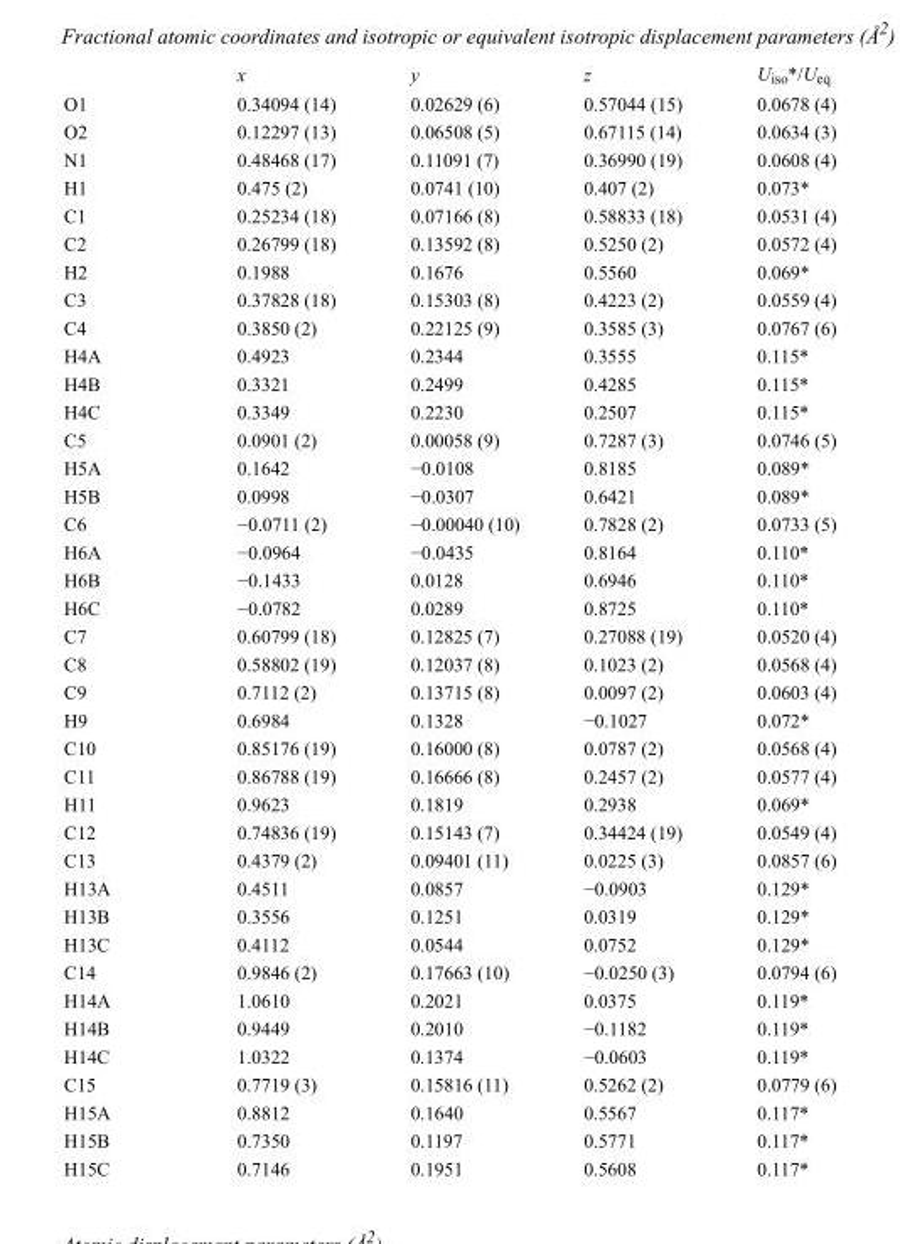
<table><thead><tr><td></td><td>x</td><td>y</td><td>z</td><td>U<sub>iso</sub>*/U<sub>eq</sub></td></tr></thead><tbody><tr><td>O1</td><td>0.34094 (14)</td><td>0.02629 (6)</td><td>0.57044 (15)</td><td>0.0678 (4)</td></tr><tr><td>O2</td><td>0.12297 (13)</td><td>0.06508 (5)</td><td>0.67115 (14)</td><td>0.0634 (3)</td></tr><tr><td>N1</td><td>0.48468 (17)</td><td>0.11091 (7)</td><td>0.36990 (19)</td><td>0.0608 (4)</td></tr><tr><td>H1</td><td>0.475 (2)</td><td>0.0741 (10)</td><td>0.407 (2)</td><td>0.073*</td></tr><tr><td>C1</td><td>0.25234 (18)</td><td>0.07166 (8)</td><td>0.58833 (18)</td><td>0.0531 (4)</td></tr><tr><td>C2</td><td>0.26799 (18)</td><td>0.13592 (8)</td><td>0.5250 (2)</td><td>0.0572 (4)</td></tr><tr><td>H2</td><td>0.1988</td><td>0.1676</td><td>0.5560</td><td>0.069*</td></tr><tr><td>C3</td><td>0.37828 (18)</td><td>0.15303 (8)</td><td>0.4223 (2)</td><td>0.0559 (4)</td></tr><tr><td>C4</td><td>0.3850 (2)</td><td>0.22125 (9)</td><td>0.3585 (3)</td><td>0.0767 (6)</td></tr><tr><td>H4A</td><td>0.4923</td><td>0.2344</td><td>0.3555</td><td>0.115*</td></tr><tr><td>H4B</td><td>0.3321</td><td>0.2499</td><td>0.4285</td><td>0.115*</td></tr><tr><td>H4C</td><td>0.3349</td><td>0.2230</td><td>0.2507</td><td>0.115*</td></tr><tr><td>C5</td><td>0.0901 (2)</td><td>0.00058 (9)</td><td>0.7287 (3)</td><td>0.0746 (5)</td></tr><tr><td>H5A</td><td>0.1642</td><td>−0.0108</td><td>0.8185</td><td>0.089*</td></tr><tr><td>H5B</td><td>0.0998</td><td>−0.0307</td><td>0.6421</td><td>0.089*</td></tr><tr><td>C6</td><td>−0.0711 (2)</td><td>−0.00040 (10)</td><td>0.7828 (2)</td><td>0.0733 (5)</td></tr><tr><td>H6A</td><td>−0.0964</td><td>−0.0435</td><td>0.8164</td><td>0.110*</td></tr><tr><td>H6B</td><td>−0.1433</td><td>0.0128</td><td>0.6946</td><td>0.110*</td></tr><tr><td>H6C</td><td>−0.0782</td><td>0.0289</td><td>0.8725</td><td>0.110*</td></tr><tr><td>C7</td><td>0.60799 (18)</td><td>0.12825 (7)</td><td>0.27088 (19)</td><td>0.0520 (4)</td></tr><tr><td>C8</td><td>0.58802 (19)</td><td>0.12037 (8)</td><td>0.1023 (2)</td><td>0.0568 (4)</td></tr><tr><td>C9</td><td>0.7112 (2)</td><td>0.13715 (8)</td><td>0.0097 (2)</td><td>0.0603 (4)</td></tr><tr><td>H9</td><td>0.6984</td><td>0.1328</td><td>−0.1027</td><td>0.072*</td></tr><tr><td>C10</td><td>0.85176 (19)</td><td>0.16000 (8)</td><td>0.0787 (2)</td><td>0.0568 (4)</td></tr><tr><td>C11</td><td>0.86788 (19)</td><td>0.16666 (8)</td><td>0.2457 (2)</td><td>0.0577 (4)</td></tr><tr><td>H11</td><td>0.9623</td><td>0.1819</td><td>0.2938</td><td>0.069*</td></tr><tr><td>C12</td><td>0.74836 (19)</td><td>0.15143 (7)</td><td>0.34424 (19)</td><td>0.0549 (4)</td></tr><tr><td>C13</td><td>0.4379 (2)</td><td>0.09401 (11)</td><td>0.0225 (3)</td><td>0.0857 (6)</td></tr><tr><td>H13A</td><td>0.4511</td><td>0.0857</td><td>−0.0903</td><td>0.129*</td></tr><tr><td>H13B</td><td>0.3556</td><td>0.1251</td><td>0.0319</td><td>0.129*</td></tr><tr><td>H13C</td><td>0.4112</td><td>0.0544</td><td>0.0752</td><td>0.129*</td></tr><tr><td>C14</td><td>0.9846 (2)</td><td>0.17663 (10)</td><td>−0.0250 (3)</td><td>0.0794 (6)</td></tr><tr><td>H14A</td><td>1.0610</td><td>0.2021</td><td>0.0375</td><td>0.119*</td></tr><tr><td>H14B</td><td>0.9449</td><td>0.2010</td><td>−0.1182</td><td>0.119*</td></tr><tr><td>H14C</td><td>1.0322</td><td>0.1374</td><td>−0.0603</td><td>0.119*</td></tr><tr><td>C15</td><td>0.7719 (3)</td><td>0.15816 (11)</td><td>0.5262 (2)</td><td>0.0779 (6)</td></tr><tr><td>H15A</td><td>0.8812</td><td>0.1640</td><td>0.5567</td><td>0.117*</td></tr><tr><td>H15B</td><td>0.7350</td><td>0.1197</td><td>0.5771</td><td>0.117*</td></tr><tr><td>H15C</td><td>0.7146</td><td>0.1951</td><td>0.5608</td><td>0.117*</td></tr></tbody></table>